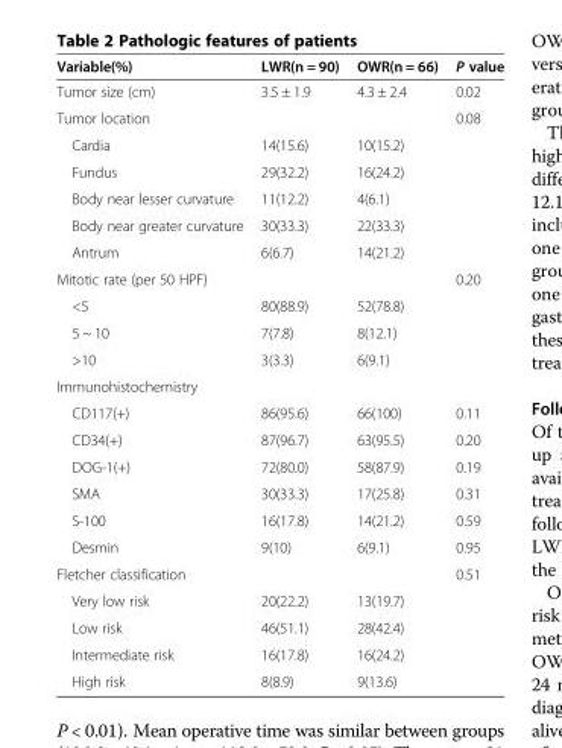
<table><thead><tr><td>Variable(%)</td><td>LWR(n = 90)</td><td>OWR(n = 66)</td><td>P value</td></tr></thead><tbody><tr><td>Tumor size (cm)</td><td>3.5 ± 1.9</td><td>4.3 ± 2.4</td><td>0.02</td></tr><tr><td>Tumor location</td><td></td><td></td><td>0.08</td></tr><tr><td>Cardia</td><td>14(15.6)</td><td>10(15.2)</td><td></td></tr><tr><td>Fundus</td><td>29(32.2)</td><td>16(24.2)</td><td></td></tr><tr><td>Body near lesser curvature</td><td>11(12.2)</td><td>4(6.1)</td><td></td></tr><tr><td>Body near greater curvature</td><td>30(33.3)</td><td>22(33.3)</td><td></td></tr><tr><td>Antrum</td><td>6(6.7)</td><td>14(21.2)</td><td></td></tr><tr><td>Mitotic rate (per 50 HPF)</td><td></td><td></td><td>0.20</td></tr><tr><td>&lt;5</td><td>80(88.9)</td><td>52(78.8)</td><td></td></tr><tr><td>5 ~ 10</td><td>7(7.8)</td><td>8(12.1)</td><td></td></tr><tr><td>&gt;10</td><td>3(3.3)</td><td>6(9.1)</td><td></td></tr><tr><td colspan="4">Immunohistochemistry</td></tr><tr><td>CD117(+)</td><td>86(95.6)</td><td>66(100)</td><td>0.11</td></tr><tr><td>CD34(+)</td><td>87(96.7)</td><td>63(95.5)</td><td>0.20</td></tr><tr><td>DOG-1(+)</td><td>72(80.0)</td><td>58(87.9)</td><td>0.19</td></tr><tr><td>SMA</td><td>30(33.3)</td><td>17(25.8)</td><td>0.31</td></tr><tr><td>S-100</td><td>16(17.8)</td><td>14(21.2)</td><td>0.59</td></tr><tr><td>Desmin</td><td>9(10)</td><td>6(9.1)</td><td>0.95</td></tr><tr><td>Fletcher classification</td><td></td><td></td><td>0.51</td></tr><tr><td>Very low risk</td><td>20(22.2)</td><td>13(19.7)</td><td></td></tr><tr><td>Low risk</td><td>46(51.1)</td><td>28(42.4)</td><td></td></tr><tr><td>Intermediate risk</td><td>16(17.8)</td><td>16(24.2)</td><td></td></tr><tr><td>High risk</td><td>8(8.9)</td><td>9(13.6)</td><td></td></tr></tbody></table>